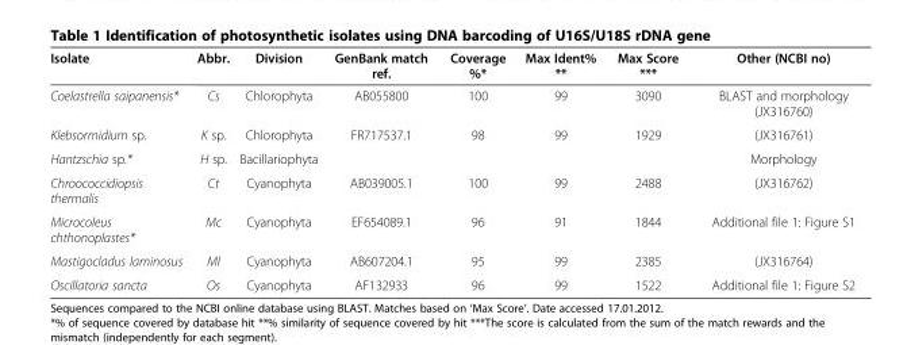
<table><thead><tr><td>Isolate</td><td>Abbr.</td><td>Division</td><td>GenBank match ref.</td><td>Coverage %*</td><td>Max Ident% **</td><td>Max Score ***</td><td>Other (NCBI no)</td></tr></thead><tbody><tr><td>Coelastrella saipanensis*</td><td>Cs</td><td>Chlorophyta</td><td>AB055800</td><td>100</td><td>99</td><td>3090</td><td>BLAST and morphology (JX316760)</td></tr><tr><td>Klebsormidium sp.</td><td>K sp.</td><td>Chlorophyta</td><td>FR717537.1</td><td>98</td><td>99</td><td>1929</td><td>(JX316761)</td></tr><tr><td>Hantzschia sp.*</td><td>H sp.</td><td>Bacillariophyta</td><td></td><td></td><td></td><td></td><td>Morphology</td></tr><tr><td>Chroococcidiopsis thermalis</td><td>Ct</td><td>Cyanophyta</td><td>AB039005.1</td><td>100</td><td>99</td><td>2488</td><td>(JX316762)</td></tr><tr><td>Microcoleus chthonoplastes*</td><td>Mc</td><td>Cyanophyta</td><td>EF654089.1</td><td>96</td><td>91</td><td>1844</td><td>Additional file 1: Figure S1</td></tr><tr><td>Mastigocladus laminosus</td><td>Ml</td><td>Cyanophyta</td><td>AB607204.1</td><td>95</td><td>99</td><td>2385</td><td>(JX316764)</td></tr><tr><td>Oscillatoria sancta</td><td>Os</td><td>Cyanophyta</td><td>AF132933</td><td>96</td><td>99</td><td>1522</td><td>Additional file 1: Figure S2</td></tr></tbody></table>